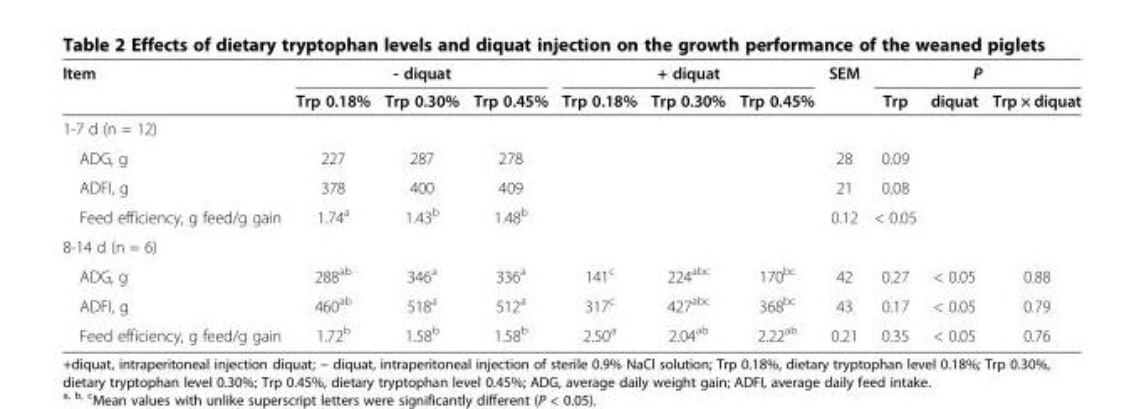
<table><thead><tr><td rowspan="2">Item</td><td colspan="3">- diquat</td><td colspan="3">+ diquat</td><td rowspan="2">SEM</td><td colspan="3">P</td></tr><tr><td>Trp 0.18%</td><td>Trp 0.30%</td><td>Trp 0.45%</td><td>Trp 0.18%</td><td>Trp 0.30%</td><td>Trp 0.45%</td><td>Trp</td><td>diquat</td><td>Trp × diquat</td></tr></thead><tbody><tr><td colspan="11">1-7 d (n = 12)</td></tr><tr><td>ADG, g</td><td>227</td><td>287</td><td>278</td><td></td><td></td><td></td><td>28</td><td>0.09</td><td></td><td></td></tr><tr><td>ADFI, g</td><td>378</td><td>400</td><td>409</td><td></td><td></td><td></td><td>21</td><td>0.08</td><td></td><td></td></tr><tr><td>Feed efficiency, g feed/g gain</td><td>1.74<sup>a</sup></td><td>1.43<sup>b</sup></td><td>1.48<sup>b</sup></td><td></td><td></td><td></td><td>0.12</td><td>&lt; 0.05</td><td></td><td></td></tr><tr><td colspan="11">8-14 d (n = 6)</td></tr><tr><td>ADG, g</td><td>288<sup>ab</sup></td><td>346<sup>a</sup></td><td>336<sup>a</sup></td><td>141<sup>c</sup></td><td>224<sup>abc</sup></td><td>170<sup>bc</sup></td><td>42</td><td>0.27</td><td>&lt; 0.05</td><td>0.88</td></tr><tr><td>ADFI, g</td><td>460<sup>ab</sup></td><td>518<sup>a</sup></td><td>512<sup>a</sup></td><td>317<sup>c</sup></td><td>427<sup>abc</sup></td><td>368<sup>bc</sup></td><td>43</td><td>0.17</td><td>&lt; 0.05</td><td>0.79</td></tr><tr><td>Feed efficiency, g feed/g gain</td><td>1.72<sup>b</sup></td><td>1.58<sup>b</sup></td><td>1.58<sup>b</sup></td><td>2.50<sup>a</sup></td><td>2.04<sup>ab</sup></td><td>2.22<sup>ab</sup></td><td>0.21</td><td>0.35</td><td>&lt; 0.05</td><td>0.76</td></tr></tbody></table>